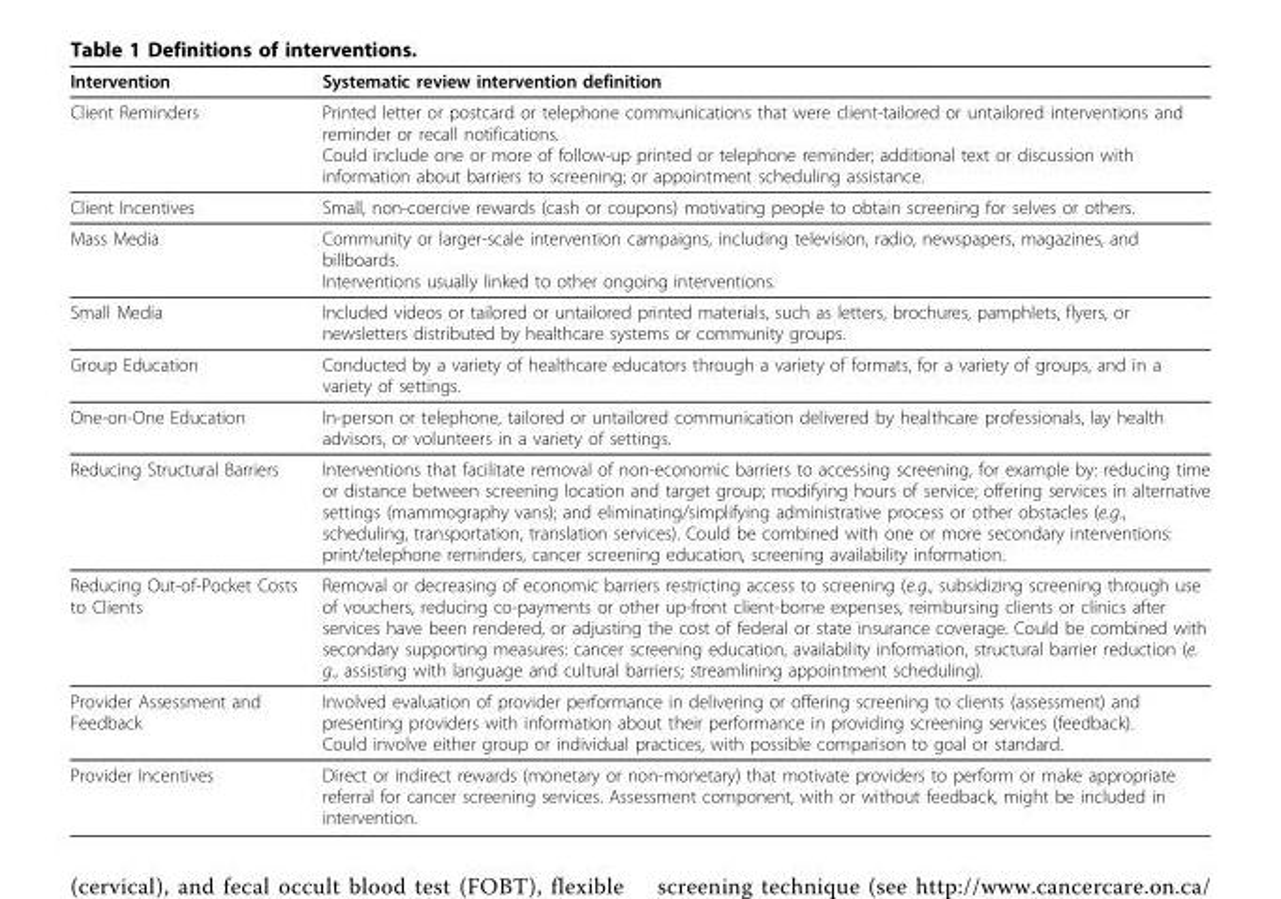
<table><thead><tr><td>Intervention</td><td>Systematic review intervention definition</td></tr></thead><tbody><tr><td>Client Reminders</td><td>Printed letter or postcard or telephone communications that were client-tailored or untailored interventions and reminder or recall notifications. Could include one or more of follow-up printed or telephone reminder; additional text or discussion with information about barriers to screening; or appointment scheduling assistance.</td></tr><tr><td>Client Incentives</td><td>Small, non-coercive rewards (cash or coupons) motivating people to obtain screening for selves or others.</td></tr><tr><td>Mass Media</td><td>Community or larger-scale intervention campaigns, including television, radio, newspapers, magazines, and billboards. Interventions usually linked to other ongoing interventions.</td></tr><tr><td>Small Media</td><td>Included videos or tailored or untailored printed materials, such as letters, brochures, pamphlets, flyers, or newsletters distributed by healthcare systems or community groups.</td></tr><tr><td>Group Education</td><td>Conducted by a variety of healthcare educators through a variety of formats, for a variety of groups, and in a variety of settings.</td></tr><tr><td>One-on-One Education</td><td>In-person or telephone, tailored or untailored communication delivered by healthcare professionals, lay health advisors, or volunteers in a variety of settings.</td></tr><tr><td>Reducing Structural Barriers</td><td>Interventions that facilitate removal of non-economic barriers to accessing screening, for example by: reducing time or distance between screening location and target group; modifying hours of service; offering services in alternative settings (mammography vans); and eliminating/simplifying administrative process or other obstacles (e.g., scheduling, transportation, translation services). Could be combined with one or more secondary interventions: print/telephone reminders, cancer screening education, screening availability information.</td></tr><tr><td>Reducing Out-of-Pocket Costs to Clients</td><td>Removal or decreasing of economic barriers restricting access to screening (e.g., subsidizing screening through use of vouchers, reducing co-payments or other up-front client-borne expenses, reimbursing clients or clinics after services have been rendered, or adjusting the cost of federal or state insurance coverage. Could be combined with secondary supporting measures: cancer screening education, availability information, structural barrier reduction (e. g., assisting with language and cultural barriers; streamlining appointment scheduling).</td></tr><tr><td>Provider Assessment and Feedback</td><td>Involved evaluation of provider performance in delivering or offering screening to clients (assessment) and presenting providers with information about their performance in providing screening services (feedback). Could involve either group or individual practices, with possible comparison to goal or standard.</td></tr><tr><td>Provider Incentives</td><td>Direct or indirect rewards (monetary or non-monetary) that motivate providers to perform or make appropriate referral for cancer screening services. Assessment component, with or without feedback, might be included in intervention.</td></tr></tbody></table>